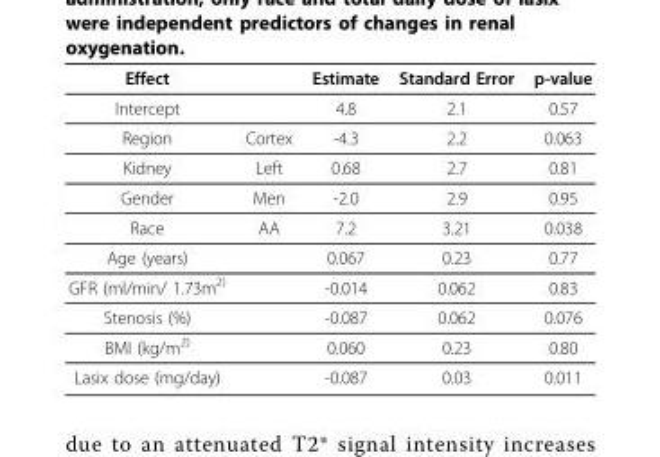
<table><thead><tr><td>Effect</td><td></td><td>Estimate</td><td>Standard Error</td><td>p-value</td></tr></thead><tbody><tr><td>Intercept</td><td></td><td>4.8</td><td>2.1</td><td>0.57</td></tr><tr><td>Region</td><td>Cortex</td><td>-4.3</td><td>2.2</td><td>0.063</td></tr><tr><td>Kidney</td><td>Left</td><td>0.68</td><td>2.7</td><td>0.81</td></tr><tr><td>Gender</td><td>Men</td><td>-2.0</td><td>2.9</td><td>0.95</td></tr><tr><td>Race</td><td>AA</td><td>7.2</td><td>3.21</td><td>0.038</td></tr><tr><td>Age (years)</td><td></td><td>0.067</td><td>0.23</td><td>0.77</td></tr><tr><td>GFR (ml/min/ 1.73m<sup>2)</sup></td><td></td><td>-0.014</td><td>0.062</td><td>0.83</td></tr><tr><td>Stenosis (%)</td><td></td><td>-0.087</td><td>0.062</td><td>0.076</td></tr><tr><td>BMI (kg/m<sup>2)</sup></td><td></td><td>0.060</td><td>0.23</td><td>0.80</td></tr><tr><td>Lasix dose (mg/day)</td><td></td><td>-0.087</td><td>0.03</td><td>0.011</td></tr></tbody></table>